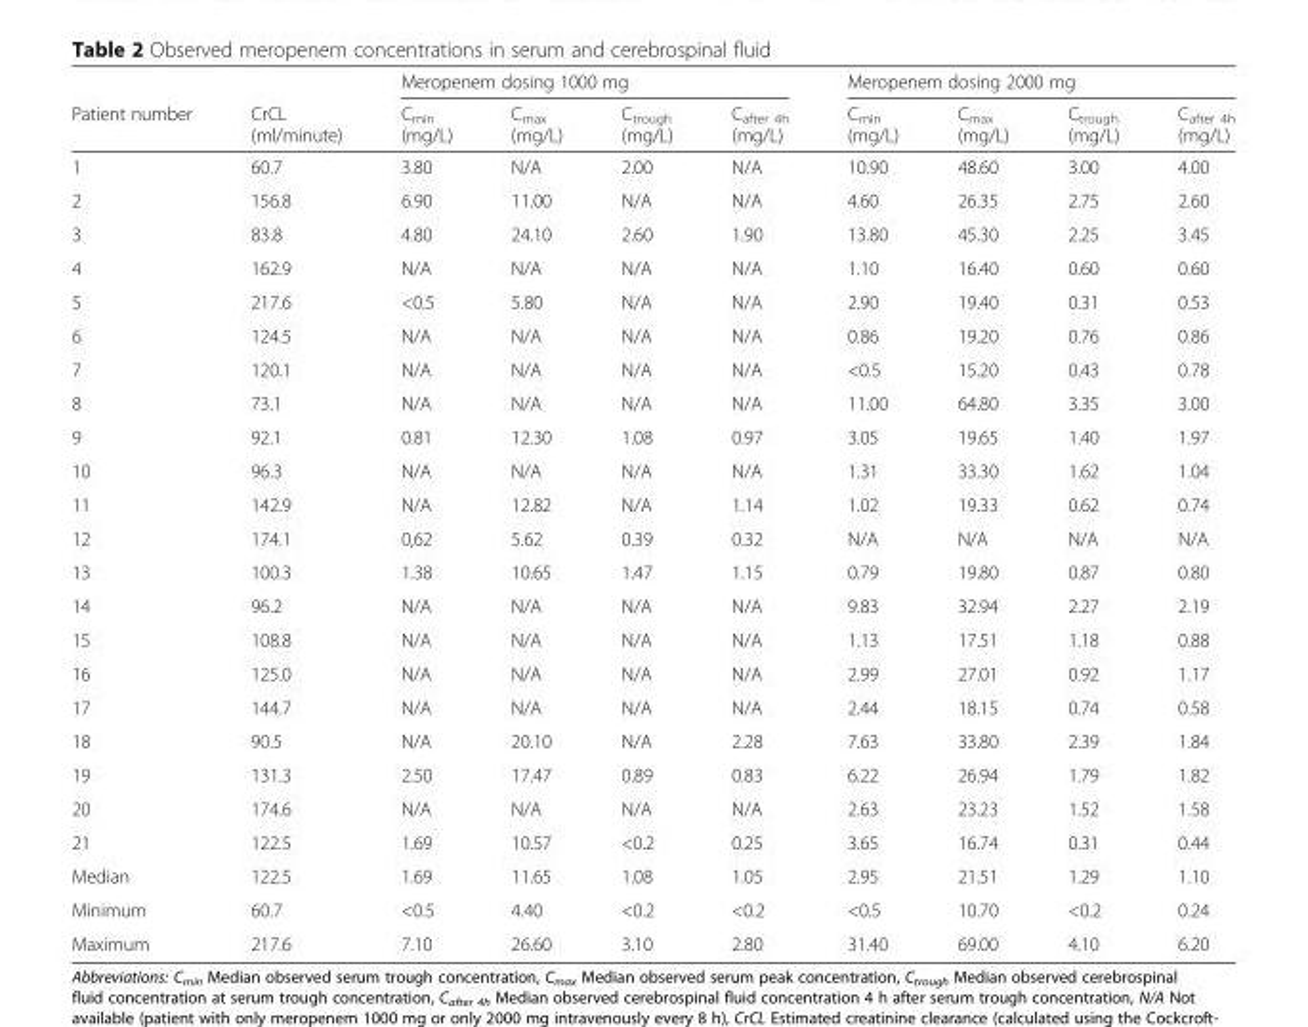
<table><thead><tr><td rowspan="2">Patient number</td><td rowspan="2">CrCL (ml/minute)</td><td colspan="4">Meropenem dosing 1000 mg</td><td colspan="4">Meropenem dosing 2000 mg</td></tr><tr><td>C<sub>min</sub> (mg/L)</td><td>C<sub>max</sub> (mg/L)</td><td>C<sub>trough</sub> (mg/L)</td><td>C<sub>after 4h</sub> (mg/L)</td><td>C<sub>min</sub> (mg/L)</td><td>C<sub>max</sub> (mg/L)</td><td>C<sub>trough</sub> (mg/L)</td><td>C<sub>after 4h</sub> (mg/L)</td></tr></thead><tbody><tr><td>1</td><td>60.7</td><td>3.80</td><td>N/A</td><td>2.00</td><td>N/A</td><td>10.90</td><td>48.60</td><td>3.00</td><td>4.00</td></tr><tr><td>2</td><td>156.8</td><td>6.90</td><td>11.00</td><td>N/A</td><td>N/A</td><td>4.60</td><td>26.35</td><td>2.75</td><td>2.60</td></tr><tr><td>3</td><td>83.8</td><td>4.80</td><td>24.10</td><td>2.60</td><td>1.90</td><td>13.80</td><td>45.30</td><td>2.25</td><td>3.45</td></tr><tr><td>4</td><td>162.9</td><td>N/A</td><td>N/A</td><td>N/A</td><td>N/A</td><td>1.10</td><td>16.40</td><td>0.60</td><td>0.60</td></tr><tr><td>5</td><td>217.6</td><td>&lt;0.5</td><td>5.80</td><td>N/A</td><td>N/A</td><td>2.90</td><td>19.40</td><td>0.31</td><td>0.53</td></tr><tr><td>6</td><td>124.5</td><td>N/A</td><td>N/A</td><td>N/A</td><td>N/A</td><td>0.86</td><td>19.20</td><td>0.76</td><td>0.86</td></tr><tr><td>7</td><td>120.1</td><td>N/A</td><td>N/A</td><td>N/A</td><td>N/A</td><td>&lt;0.5</td><td>15.20</td><td>0.43</td><td>0.78</td></tr><tr><td>8</td><td>73.1</td><td>N/A</td><td>N/A</td><td>N/A</td><td>N/A</td><td>11.00</td><td>64.80</td><td>3.35</td><td>3.00</td></tr><tr><td>9</td><td>92.1</td><td>0.81</td><td>12.30</td><td>1.08</td><td>0.97</td><td>3.05</td><td>19.65</td><td>1.40</td><td>1.97</td></tr><tr><td>10</td><td>96.3</td><td>N/A</td><td>N/A</td><td>N/A</td><td>N/A</td><td>1.31</td><td>33.30</td><td>1.62</td><td>1.04</td></tr><tr><td>11</td><td>142.9</td><td>N/A</td><td>12.82</td><td>N/A</td><td>1.14</td><td>1.02</td><td>19.33</td><td>0.62</td><td>0.74</td></tr><tr><td>12</td><td>174.1</td><td>0,62</td><td>5.62</td><td>0.39</td><td>0.32</td><td>N/A</td><td>N/A</td><td>N/A</td><td>N/A</td></tr><tr><td>13</td><td>100.3</td><td>1.38</td><td>10.65</td><td>1.47</td><td>1.15</td><td>0.79</td><td>19.80</td><td>0.87</td><td>0.80</td></tr><tr><td>14</td><td>96.2</td><td>N/A</td><td>N/A</td><td>N/A</td><td>N/A</td><td>9.83</td><td>32.94</td><td>2.27</td><td>2.19</td></tr><tr><td>15</td><td>108.8</td><td>N/A</td><td>N/A</td><td>N/A</td><td>N/A</td><td>1.13</td><td>17.51</td><td>1.18</td><td>0.88</td></tr><tr><td>16</td><td>125.0</td><td>N/A</td><td>N/A</td><td>N/A</td><td>N/A</td><td>2.99</td><td>27.01</td><td>0.92</td><td>1.17</td></tr><tr><td>17</td><td>144.7</td><td>N/A</td><td>N/A</td><td>N/A</td><td>N/A</td><td>2.44</td><td>18.15</td><td>0.74</td><td>0.58</td></tr><tr><td>18</td><td>90.5</td><td>N/A</td><td>20.10</td><td>N/A</td><td>2.28</td><td>7.63</td><td>33.80</td><td>2.39</td><td>1.84</td></tr><tr><td>19</td><td>131.3</td><td>2.50</td><td>17.47</td><td>0.89</td><td>0.83</td><td>6.22</td><td>26.94</td><td>1.79</td><td>1.82</td></tr><tr><td>20</td><td>174.6</td><td>N/A</td><td>N/A</td><td>N/A</td><td>N/A</td><td>2.63</td><td>23.23</td><td>1.52</td><td>1.58</td></tr><tr><td>21</td><td>122.5</td><td>1.69</td><td>10.57</td><td>&lt;0.2</td><td>0.25</td><td>3.65</td><td>16.74</td><td>0.31</td><td>0.44</td></tr><tr><td>Median</td><td>122.5</td><td>1.69</td><td>11.65</td><td>1.08</td><td>1.05</td><td>2.95</td><td>21.51</td><td>1.29</td><td>1.10</td></tr><tr><td>Minimum</td><td>60.7</td><td>&lt;0.5</td><td>4.40</td><td>&lt;0.2</td><td>&lt;0.2</td><td>&lt;0.5</td><td>10.70</td><td>&lt;0.2</td><td>0.24</td></tr><tr><td>Maximum</td><td>217.6</td><td>7.10</td><td>26.60</td><td>3.10</td><td>2.80</td><td>31.40</td><td>69.00</td><td>4.10</td><td>6.20</td></tr></tbody></table>